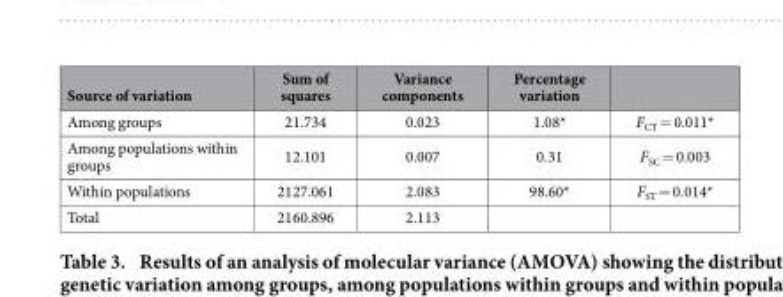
<table><thead><tr><td>Source of variation</td><td>Sum of squares</td><td>Variance components</td><td>Percentage variation</td><td></td></tr></thead><tbody><tr><td>Among groups</td><td>21.734</td><td>0.023</td><td>1.08*</td><td>F<sub>CT</sub> = 0.011*</td></tr><tr><td>Among populations within groups</td><td>12.101</td><td>0.007</td><td>0.31</td><td>F<sub>SC</sub> = 0.003</td></tr><tr><td>Within populations</td><td>2127.061</td><td>2.083</td><td>98.60*</td><td>F<sub>ST</sub> = 0.014*</td></tr><tr><td>Total</td><td>2160.896</td><td>2.113</td><td></td><td></td></tr></tbody></table>